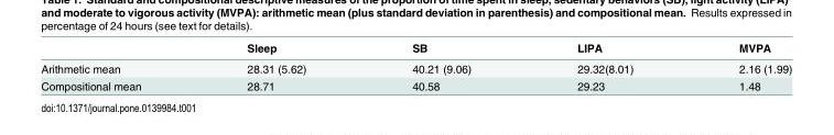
<table><thead><tr><td></td><td>Sleep</td><td>SB</td><td>LIPA</td><td>MVPA</td></tr></thead><tbody><tr><td>Arithmetic mean</td><td>28.31 (5.62)</td><td>40.21 (9.06)</td><td>29.32(8.01)</td><td>2.16 (1.99)</td></tr><tr><td>Compositional mean</td><td>28.71</td><td>40.58</td><td>29.23</td><td>1.48</td></tr></tbody></table>